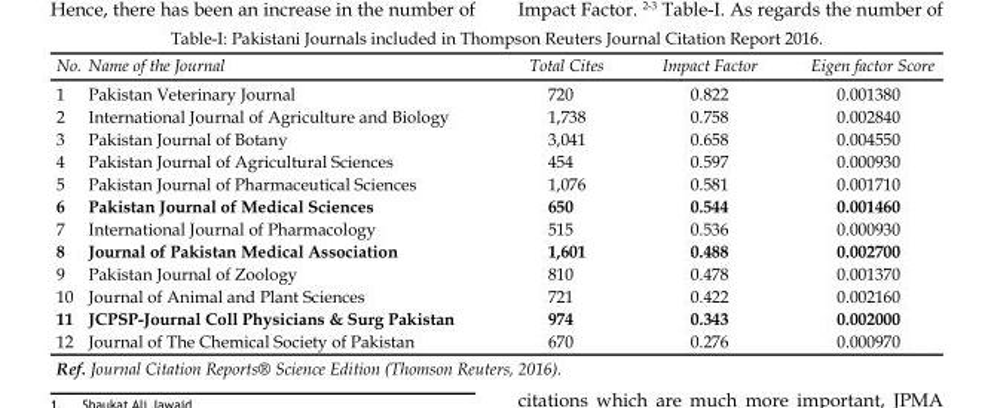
<table><thead><tr><td>No.</td><td>Name of the Journal</td><td>Total Cites</td><td>Impact Factor</td><td>Eigen factor Score</td></tr></thead><tbody><tr><td>1</td><td>Pakistan Veterinary Journal</td><td>720</td><td>0.822</td><td>0.001380</td></tr><tr><td>2</td><td>International Journal of Agriculture and Biology</td><td>1,738</td><td>0.758</td><td>0.002840</td></tr><tr><td>3</td><td>Pakistan Journal of Botany</td><td>3,041</td><td>0.658</td><td>0.004550</td></tr><tr><td>4</td><td>Pakistan Journal of Agricultural Sciences</td><td>454</td><td>0.597</td><td>0.000930</td></tr><tr><td>5</td><td>Pakistan Journal of Pharmaceutical Sciences</td><td>1,076</td><td>0.581</td><td>0.001710</td></tr><tr><td>6</td><td>Pakistan Journal of Medical Sciences</td><td>650</td><td>0.544</td><td>0.001460</td></tr><tr><td>7</td><td>International Journal of Pharmacology</td><td>515</td><td>0.536</td><td>0.000930</td></tr><tr><td>8</td><td>Journal of Pakistan Medical Association</td><td>1,601</td><td>0.488</td><td>0.002700</td></tr><tr><td>9</td><td>Pakistan Journal of Zoology</td><td>810</td><td>0.478</td><td>0.001370</td></tr><tr><td>10</td><td>Journal of Animal and Plant Sciences</td><td>721</td><td>0.422</td><td>0.002160</td></tr><tr><td>11</td><td>JCPSP-Journal Coll Physicians &amp; Surg Pakistan</td><td>974</td><td>0.343</td><td>0.002000</td></tr><tr><td>12</td><td>Journal of The Chemical Society of Pakistan</td><td>670</td><td>0.276</td><td>0.000970</td></tr></tbody></table>